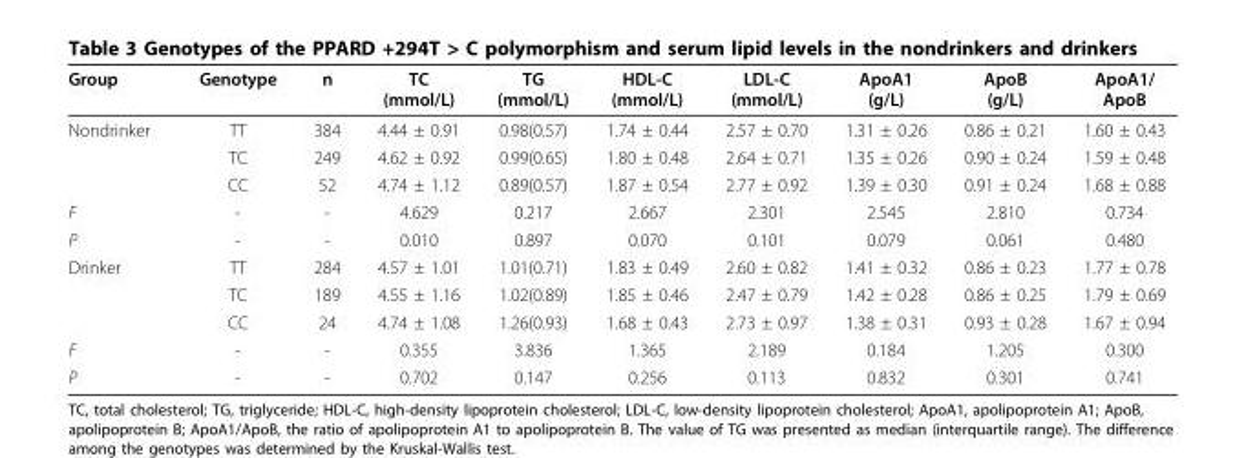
<table><thead><tr><td>Group</td><td>Genotype</td><td>n</td><td>TC (mmol/L)</td><td>TG (mmol/L)</td><td>HDL-C (mmol/L)</td><td>LDL-C (mmol/L)</td><td>ApoA1 (g/L)</td><td>ApoB (g/L)</td><td>ApoA1/ ApoB</td></tr></thead><tbody><tr><td rowspan="3">Nondrinker</td><td>TT</td><td>384</td><td>4.44 ± 0.91</td><td>0.98(0.57)</td><td>1.74 ± 0.44</td><td>2.57 ± 0.70</td><td>1.31 ± 0.26</td><td>0.86 ± 0.21</td><td>1.60 ± 0.43</td></tr><tr><td>TC</td><td>249</td><td>4.62 ± 0.92</td><td>0.99(0.65)</td><td>1.80 ± 0.48</td><td>2.64 ± 0.71</td><td>1.35 ± 0.26</td><td>0.90 ± 0.24</td><td>1.59 ± 0.48</td></tr><tr><td>CC</td><td>52</td><td>4.74 ± 1.12</td><td>0.89(0.57)</td><td>1.87 ± 0.54</td><td>2.77 ± 0.92</td><td>1.39 ± 0.30</td><td>0.91 ± 0.24</td><td>1.68 ± 0.88</td></tr><tr><td>F</td><td>-</td><td>-</td><td>4.629</td><td>0.217</td><td>2.667</td><td>2.301</td><td>2.545</td><td>2.810</td><td>0.734</td></tr><tr><td>P</td><td>-</td><td>-</td><td>0.010</td><td>0.897</td><td>0.070</td><td>0.101</td><td>0.079</td><td>0.061</td><td>0.480</td></tr><tr><td rowspan="3">Drinker</td><td>TT</td><td>284</td><td>4.57 ± 1.01</td><td>1.01(0.71)</td><td>1.83 ± 0.49</td><td>2.60 ± 0.82</td><td>1.41 ± 0.32</td><td>0.86 ± 0.23</td><td>1.77 ± 0.78</td></tr><tr><td>TC</td><td>189</td><td>4.55 ± 1.16</td><td>1.02(0.89)</td><td>1.85 ± 0.46</td><td>2.47 ± 0.79</td><td>1.42 ± 0.28</td><td>0.86 ± 0.25</td><td>1.79 ± 0.69</td></tr><tr><td>CC</td><td>24</td><td>4.74 ± 1.08</td><td>1.26(0.93)</td><td>1.68 ± 0.43</td><td>2.73 ± 0.97</td><td>1.38 ± 0.31</td><td>0.93 ± 0.28</td><td>1.67 ± 0.94</td></tr><tr><td>F</td><td>-</td><td>-</td><td>0.355</td><td>3.836</td><td>1.365</td><td>2.189</td><td>0.184</td><td>1.205</td><td>0.300</td></tr><tr><td>P</td><td>-</td><td>-</td><td>0.702</td><td>0.147</td><td>0.256</td><td>0.113</td><td>0.832</td><td>0.301</td><td>0.741</td></tr></tbody></table>